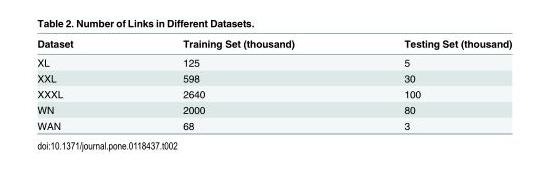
<table><thead><tr><td>Dataset</td><td>Training Set (thousand)</td><td>Testing Set (thousand)</td></tr></thead><tbody><tr><td>XL</td><td>125</td><td>5</td></tr><tr><td>XXL</td><td>598</td><td>30</td></tr><tr><td>XXXL</td><td>2640</td><td>100</td></tr><tr><td>WN</td><td>2000</td><td>80</td></tr><tr><td>WAN</td><td>68</td><td>3</td></tr></tbody></table>